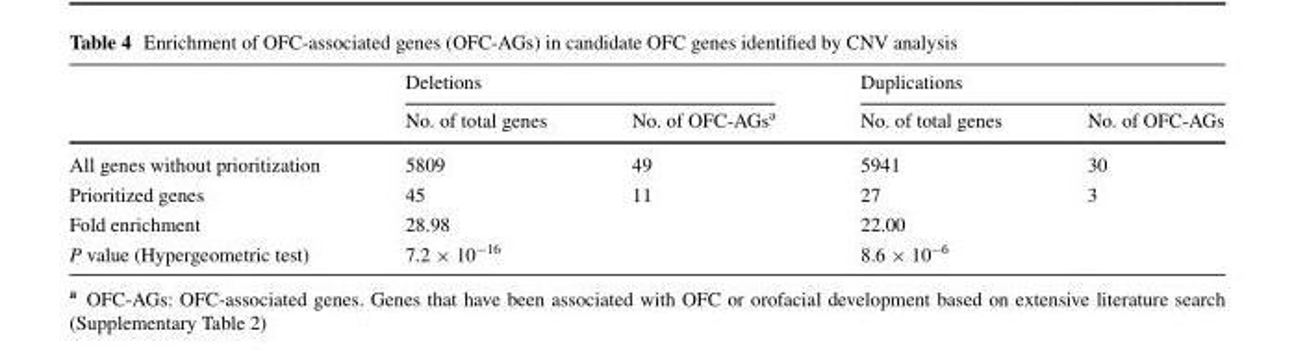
<table><thead><tr><td rowspan="2"></td><td colspan="2">Deletions</td><td colspan="2">Duplications</td></tr><tr><td>No. of total genes</td><td>No. of OFC-AGs<sup>a</sup></td><td>No. of total genes</td><td>No. of OFC-AGs</td></tr></thead><tbody><tr><td>All genes without prioritization</td><td>5809</td><td>49</td><td>5941</td><td>30</td></tr><tr><td>Prioritized genes</td><td>45</td><td>11</td><td>27</td><td>3</td></tr><tr><td>Fold enrichment</td><td colspan="2">28.98</td><td colspan="2">22.00</td></tr><tr><td>P value (Hypergeometric test)</td><td colspan="2">7.2 × 10<sup>−16</sup></td><td colspan="2">8.6 × 10<sup>−6</sup></td></tr></tbody></table>